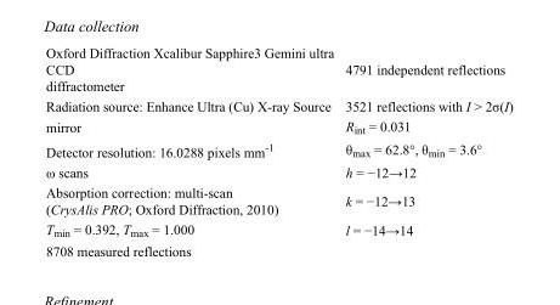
<table><tbody><tr><td>Oxford Diffraction Xcalibur Sapphire3 Gemini ultra CCD diffractometer</td><td>4791 independent reflections</td></tr><tr><td>Radiation source: Enhance Ultra (Cu) X-ray Source</td><td>3521 reflections with I &gt; 2σ(I)</td></tr><tr><td>mirror</td><td>R<sub>int</sub> = 0.031</td></tr><tr><td>Detector resolution: 16.0288 pixels mm<sup>-1</sup></td><td>θ<sub>max</sub> = 62.8°, θ<sub>min</sub> = 3.6°</td></tr><tr><td>ω scans</td><td>h = −12→12</td></tr><tr><td>Absorption correction: multi-scan (CrysAlis PRO; Oxford Diffraction, 2010)</td><td>k = −12→13</td></tr><tr><td>T<sub>min</sub> = 0.392, T<sub>max</sub> = 1.000</td><td>l = −14→14</td></tr><tr><td>8708 measured reflections</td><td></td></tr></tbody></table>